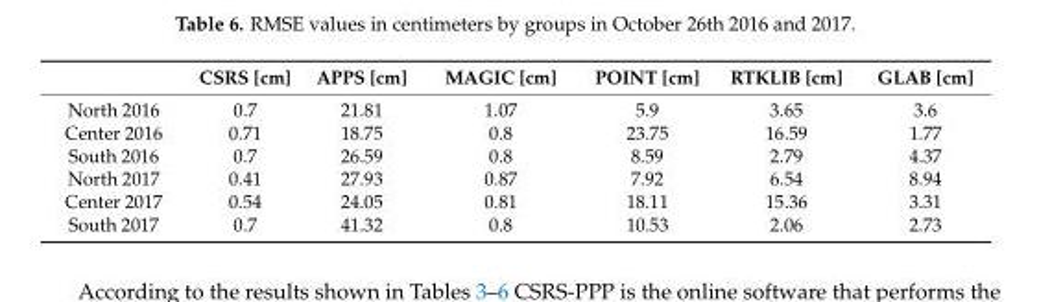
<table><thead><tr><td></td><td>CSRS [cm]</td><td>APPS [cm]</td><td>MAGIC [cm]</td><td>POINT [cm]</td><td>RTKLIB [cm]</td><td>GLAB [cm]</td></tr></thead><tbody><tr><td>North 2016</td><td>0.7</td><td>21.81</td><td>1.07</td><td>5.9</td><td>3.65</td><td>3.6</td></tr><tr><td>Center 2016</td><td>0.71</td><td>18.75</td><td>0.8</td><td>23.75</td><td>16.59</td><td>1.77</td></tr><tr><td>South 2016</td><td>0.7</td><td>26.59</td><td>0.8</td><td>8.59</td><td>2.79</td><td>4.37</td></tr><tr><td>North 2017</td><td>0.41</td><td>27.93</td><td>0.87</td><td>7.92</td><td>6.54</td><td>8.94</td></tr><tr><td>Center 2017</td><td>0.54</td><td>24.05</td><td>0.81</td><td>18.11</td><td>15.36</td><td>3.31</td></tr><tr><td>South 2017</td><td>0.7</td><td>41.32</td><td>0.8</td><td>10.53</td><td>2.06</td><td>2.73</td></tr></tbody></table>